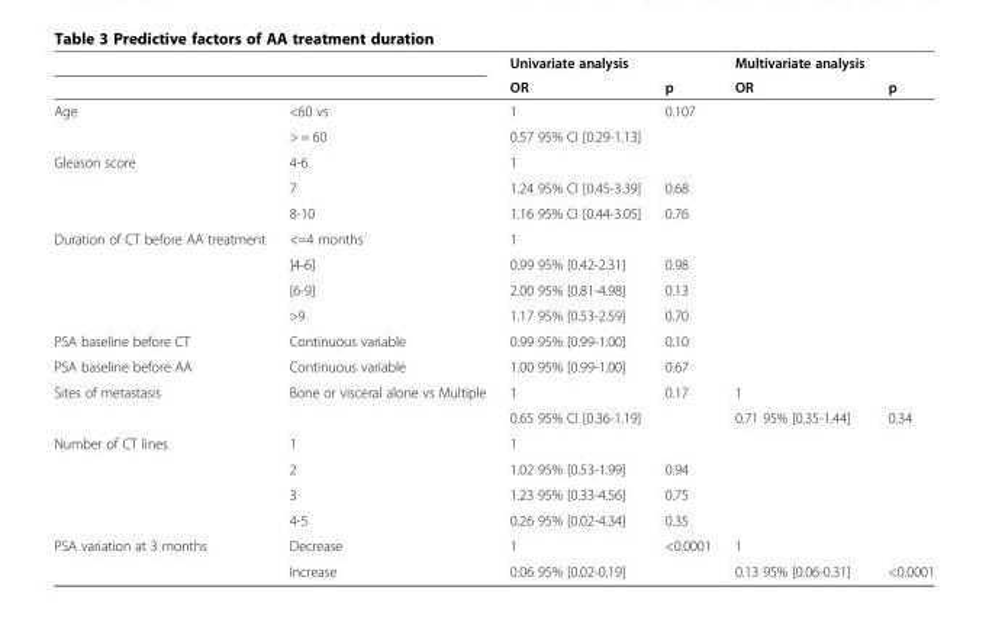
<table><thead><tr><td rowspan="2"></td><td rowspan="2"></td><td rowspan="2">Univariate analysis OR</td><td rowspan="2">p</td><td rowspan="2">Multivariate analysis OR</td><td rowspan="2">p</td></tr><tr></tr></thead><tbody><tr><td rowspan="2">Age</td><td>&lt;60 vs</td><td>1</td><td rowspan="2">0.107</td><td rowspan="2"></td><td rowspan="2"></td></tr><tr><td>&gt; = 60</td><td>0.57 95% CI [0.29-1.13]</td></tr><tr><td rowspan="3">Gleason score</td><td>4-6</td><td>1</td><td></td><td rowspan="3"></td><td rowspan="3"></td></tr><tr><td>7</td><td>1.24 95% CI [0.45-3.39]</td><td>0.68</td></tr><tr><td>8-10</td><td>1.16 95% CI [0.44-3.05]</td><td>0.76</td></tr><tr><td rowspan="4">Duration of CT before AA treatment</td><td>&lt;=4 months</td><td>1</td><td></td><td rowspan="4"></td><td rowspan="4"></td></tr><tr><td>]4-6]</td><td>0.99 95% [0.42-2.31]</td><td>0.98</td></tr><tr><td>[6-9]</td><td>2.00 95% [0.81-4.98]</td><td>0.13</td></tr><tr><td>&gt;9</td><td>1.17 95% [0.53-2.59]</td><td>0.70</td></tr><tr><td>PSA baseline before CT</td><td>Continuous variable</td><td>0.99 95% [0.99-1.00]</td><td>0.10</td><td></td><td></td></tr><tr><td>PSA baseline before AA</td><td>Continuous variable</td><td>1.00 95% [0.99-1.00]</td><td>0.67</td><td></td><td></td></tr><tr><td rowspan="2">Sites of metastasis</td><td rowspan="2">Bone or visceral alone vs Multiple</td><td>1</td><td>0.17</td><td>1</td><td></td></tr><tr><td>0.65 95% CI [0.36-1.19]</td><td></td><td>0.71 95% [0.35-1.44]</td><td>0.34</td></tr><tr><td rowspan="4">Number of CT lines</td><td>1</td><td>1</td><td></td><td rowspan="4"></td><td rowspan="4"></td></tr><tr><td>2</td><td>1.02 95% [0.53-1.99]</td><td>0.94</td></tr><tr><td>3</td><td>1.23 95% [0.33-4.56]</td><td>0.75</td></tr><tr><td>4-5</td><td>0.26 95% [0.02-4.34]</td><td>0.35</td></tr><tr><td rowspan="2">PSA variation at 3 months</td><td>Decrease</td><td>1</td><td>&lt;0.0001</td><td>1</td><td></td></tr><tr><td>Increase</td><td>0.06 95% [0.02-0.19]</td><td></td><td>0.13 95% [0.06-0.31]</td><td>&lt;0.0001</td></tr></tbody></table>